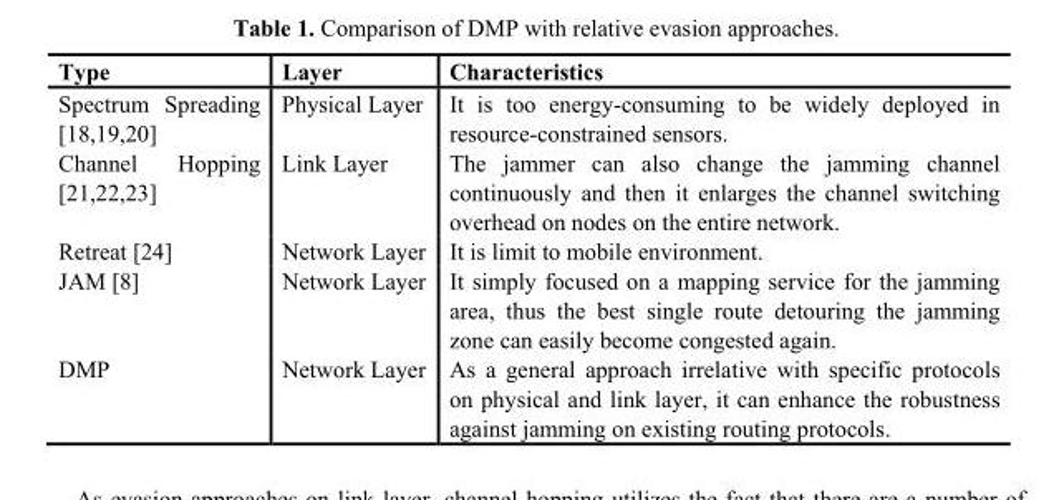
<table><thead><tr><td>Type</td><td>Layer</td><td>Characteristics</td></tr></thead><tbody><tr><td>Spectrum Spreading [18,19,20]</td><td>Physical Layer</td><td>It is too energy-consuming to be widely deployed in resource-constrained sensors.</td></tr><tr><td>Channel Hopping [21,22,23]</td><td>Link Layer</td><td>The jammer can also change the jamming channel continuously and then it enlarges the channel switching overhead on nodes on the entire network.</td></tr><tr><td>Retreat [24]</td><td>Network Layer</td><td>It is limit to mobile environment.</td></tr><tr><td>JAM [8]</td><td>Network Layer</td><td>It simply focused on a mapping service for the jamming area, thus the best single route detouring the jamming zone can easily become congested again.</td></tr><tr><td>DMP</td><td>Network Layer</td><td>As a general approach irrelative with specific protocols on physical and link layer, it can enhance the robustness against jamming on existing routing protocols.</td></tr></tbody></table>